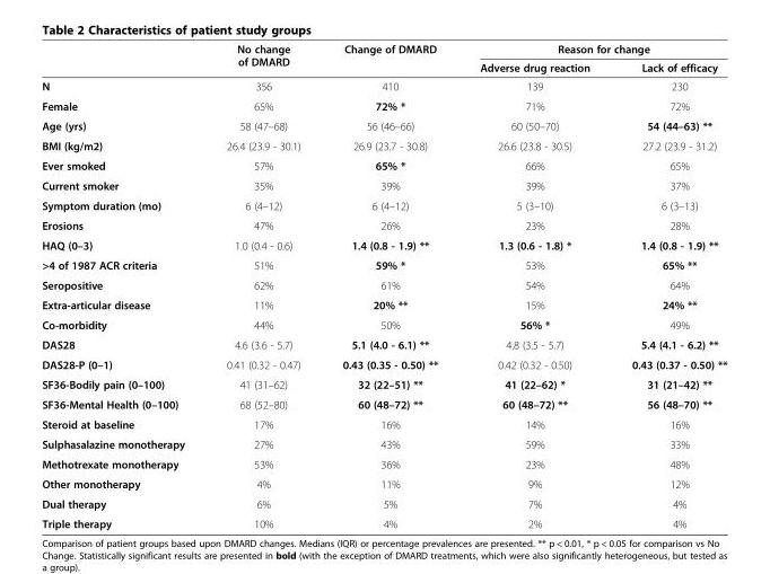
<table><thead><tr><td rowspan="2"></td><td rowspan="2">No change of DMARD</td><td rowspan="2">Change of DMARD</td><td colspan="2">Reason for change</td></tr><tr><td>Adverse drug reaction</td><td>Lack of efficacy</td></tr></thead><tbody><tr><td>N</td><td>356</td><td>410</td><td>139</td><td>230</td></tr><tr><td>Female</td><td>65%</td><td>72% *</td><td>71%</td><td>72%</td></tr><tr><td>Age (yrs)</td><td>58 (47–68)</td><td>56 (46–66)</td><td>60 (50–70)</td><td>54 (44–63) **</td></tr><tr><td>BMI (kg/m2)</td><td>26.4 (23.9 - 30.1)</td><td>26.9 (23.7 - 30.8)</td><td>26.6 (23.8 - 30.5)</td><td>27.2 (23.9 - 31.2)</td></tr><tr><td>Ever smoked</td><td>57%</td><td>65% *</td><td>66%</td><td>65%</td></tr><tr><td>Current smoker</td><td>35%</td><td>39%</td><td>39%</td><td>37%</td></tr><tr><td>Symptom duration (mo)</td><td>6 (4–12)</td><td>6 (4–12)</td><td>5 (3–10)</td><td>6 (3–13)</td></tr><tr><td>Erosions</td><td>47%</td><td>26%</td><td>23%</td><td>28%</td></tr><tr><td>HAQ (0–3)</td><td>1.0 (0.4 - 0.6)</td><td>1.4 (0.8 - 1.9) **</td><td>1.3 (0.6 - 1.8) *</td><td>1.4 (0.8 - 1.9) **</td></tr><tr><td>&gt;4 of 1987 ACR criteria</td><td>51%</td><td>59% *</td><td>53%</td><td>65% **</td></tr><tr><td>Seropositive</td><td>62%</td><td>61%</td><td>54%</td><td>64%</td></tr><tr><td>Extra-articular disease</td><td>11%</td><td>20% **</td><td>15%</td><td>24% **</td></tr><tr><td>Co-morbidity</td><td>44%</td><td>50%</td><td>56% *</td><td>49%</td></tr><tr><td>DAS28</td><td>4.6 (3.6 - 5.7)</td><td>5.1 (4.0 - 6.1) **</td><td>4.8 (3.5 - 5.7)</td><td>5.4 (4.1 - 6.2) **</td></tr><tr><td>DAS28-P (0–1)</td><td>0.41 (0.32 - 0.47)</td><td>0.43 (0.35 - 0.50) **</td><td>0.42 (0.32 - 0.50)</td><td>0.43 (0.37 - 0.50) **</td></tr><tr><td>SF36-Bodily pain (0–100)</td><td>41 (31–62)</td><td>32 (22–51) **</td><td>41 (22–62) *</td><td>31 (21–42) **</td></tr><tr><td>SF36-Mental Health (0–100)</td><td>68 (52–80)</td><td>60 (48–72) **</td><td>60 (48–72) **</td><td>56 (48–70) **</td></tr><tr><td>Steroid at baseline</td><td>17%</td><td>16%</td><td>14%</td><td>16%</td></tr><tr><td>Sulphasalazine monotherapy</td><td>27%</td><td>43%</td><td>59%</td><td>33%</td></tr><tr><td>Methotrexate monotherapy</td><td>53%</td><td>36%</td><td>23%</td><td>48%</td></tr><tr><td>Other monotherapy</td><td>4%</td><td>11%</td><td>9%</td><td>12%</td></tr><tr><td>Dual therapy</td><td>6%</td><td>5%</td><td>7%</td><td>4%</td></tr><tr><td>Triple therapy</td><td>10%</td><td>4%</td><td>2%</td><td>4%</td></tr></tbody></table>